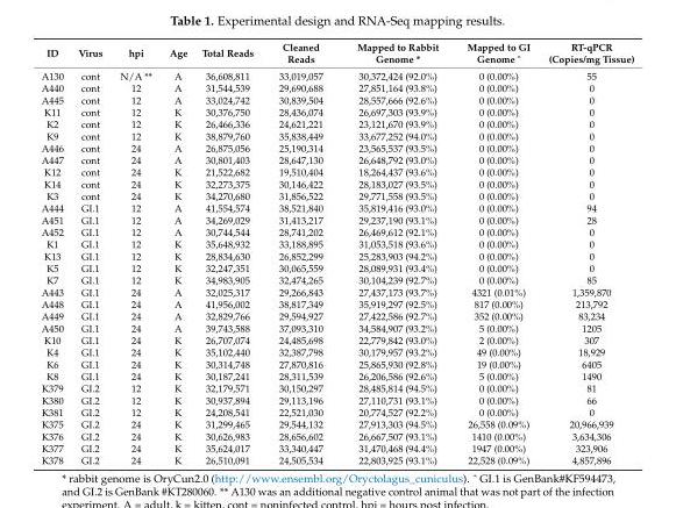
<table><thead><tr><td>ID</td><td>Virus</td><td>hpi</td><td>Age</td><td>Total Reads</td><td>Cleaned Reads</td><td>Mapped to Rabbit Genome *</td><td>Mapped to GI Genome ˆ</td><td>RT-qPCR (Copies/mg Tissue)</td></tr></thead><tbody><tr><td>A130</td><td>cont</td><td>N/A **</td><td>A</td><td>36,608,811</td><td>33,019,057</td><td>30,372,424 (92.0%)</td><td>0 (0.00%)</td><td>55</td></tr><tr><td>A440</td><td>cont</td><td>12</td><td>A</td><td>31,544,539</td><td>29,690,688</td><td>27,851,164 (93.8%)</td><td>0 (0.00%)</td><td>0</td></tr><tr><td>A445</td><td>cont</td><td>12</td><td>A</td><td>33,024,742</td><td>30,839,504</td><td>28,557,666 (92.6%)</td><td>0 (0.00%)</td><td>0</td></tr><tr><td>K11</td><td>cont</td><td>12</td><td>K</td><td>30,376,750</td><td>28,436,074</td><td>26,697,303 (93.9%)</td><td>0 (0.00%)</td><td>0</td></tr><tr><td>K2</td><td>cont</td><td>12</td><td>K</td><td>26,466,336</td><td>24,621,221</td><td>23,121,670 (93.9%)</td><td>0 (0.00%)</td><td>0</td></tr><tr><td>K9</td><td>cont</td><td>12</td><td>K</td><td>38,879,760</td><td>35,838,449</td><td>33,677,252 (94.0%)</td><td>0 (0.00%)</td><td>0</td></tr><tr><td>A446</td><td>cont</td><td>24</td><td>A</td><td>26,875,056</td><td>25,190,314</td><td>23,565,537 (93.5%)</td><td>0 (0.00%)</td><td>0</td></tr><tr><td>A447</td><td>cont</td><td>24</td><td>A</td><td>30,801,403</td><td>28,647,130</td><td>26,648,792 (93.0%)</td><td>0 (0.00%)</td><td>0</td></tr><tr><td>K12</td><td>cont</td><td>24</td><td>K</td><td>21,522,682</td><td>19,510,404</td><td>18,264,437 (93.6%)</td><td>0 (0.00%)</td><td>0</td></tr><tr><td>K14</td><td>cont</td><td>24</td><td>K</td><td>32,273,375</td><td>30,146,422</td><td>28,183,027 (93.5%)</td><td>0 (0.00%)</td><td>0</td></tr><tr><td>K3</td><td>cont</td><td>24</td><td>K</td><td>34,270,680</td><td>31,856,522</td><td>29,771,558 (93.5%)</td><td>0 (0.00%)</td><td>0</td></tr><tr><td>A444</td><td>GI.1</td><td>12</td><td>A</td><td>41,554,574</td><td>38,521,840</td><td>35,819,416 (93.0%)</td><td>0 (0.00%)</td><td>94</td></tr><tr><td>A451</td><td>GI.1</td><td>12</td><td>A</td><td>34,269,029</td><td>31,413,217</td><td>29,237,190 (93.1%)</td><td>0 (0.00%)</td><td>28</td></tr><tr><td>A452</td><td>GI.1</td><td>12</td><td>A</td><td>30,744,544</td><td>28,741,202</td><td>26,469,612 (92.1%)</td><td>0 (0.00%)</td><td>0</td></tr><tr><td>K1</td><td>GI.1</td><td>12</td><td>K</td><td>35,648,932</td><td>33,188,895</td><td>31,053,518 (93.6%)</td><td>0 (0.00%)</td><td>0</td></tr><tr><td>K13</td><td>GI.1</td><td>12</td><td>K</td><td>28,834,630</td><td>26,852,299</td><td>25,283,903 (94.2%)</td><td>0 (0.00%)</td><td>0</td></tr><tr><td>K5</td><td>GI.1</td><td>12</td><td>K</td><td>32,247,351</td><td>30,065,559</td><td>28,089,931 (93.4%)</td><td>0 (0.00%)</td><td>0</td></tr><tr><td>K7</td><td>GI.1</td><td>12</td><td>K</td><td>34,983,905</td><td>32,474,265</td><td>30,104,239 (92.7%)</td><td>0 (0.00%)</td><td>85</td></tr><tr><td>A443</td><td>GI.1</td><td>24</td><td>A</td><td>32,025,317</td><td>29,266,843</td><td>27,437,173 (93.7%)</td><td>4321 (0.01%)</td><td>1,359,870</td></tr><tr><td>A448</td><td>GI.1</td><td>24</td><td>A</td><td>41,956,002</td><td>38,817,349</td><td>35,919,297 (92.5%)</td><td>817 (0.00%)</td><td>213,792</td></tr><tr><td>A449</td><td>GI.1</td><td>24</td><td>A</td><td>32,829,766</td><td>29,594,927</td><td>27,422,586 (92.7%)</td><td>352 (0.00%)</td><td>83,234</td></tr><tr><td>A450</td><td>GI.1</td><td>24</td><td>A</td><td>39,743,588</td><td>37,093,310</td><td>34,584,907 (93.2%)</td><td>5 (0.00%)</td><td>1205</td></tr><tr><td>K10</td><td>GI.1</td><td>24</td><td>K</td><td>26,707,074</td><td>24,485,698</td><td>22,779,842 (93.0%)</td><td>2 (0.00%)</td><td>307</td></tr><tr><td>K4</td><td>GI.1</td><td>24</td><td>K</td><td>35,102,440</td><td>32,387,798</td><td>30,179,957 (93.2%)</td><td>49 (0.00%)</td><td>18,929</td></tr><tr><td>K6</td><td>GI.1</td><td>24</td><td>K</td><td>30,314,748</td><td>27,870,816</td><td>25,865,930 (92.8%)</td><td>19 (0.00%)</td><td>6405</td></tr><tr><td>K8</td><td>GI.1</td><td>24</td><td>K</td><td>30,187,241</td><td>28,311,539</td><td>26,206,586 (92.6%)</td><td>5 (0.00%)</td><td>1490</td></tr><tr><td>K379</td><td>GI.2</td><td>12</td><td>K</td><td>32,179,571</td><td>30,150,297</td><td>28,485,814 (94.5%)</td><td>0 (0.00%)</td><td>81</td></tr><tr><td>K380</td><td>GI.2</td><td>12</td><td>K</td><td>30,937,894</td><td>29,113,196</td><td>27,110,731 (93.1%)</td><td>0 (0.00%)</td><td>66</td></tr><tr><td>K381</td><td>GI.2</td><td>12</td><td>K</td><td>24,208,541</td><td>22,521,030</td><td>20,774,527 (92.2%)</td><td>0 (0.00%)</td><td>0</td></tr><tr><td>K375</td><td>GI.2</td><td>24</td><td>K</td><td>31,299,465</td><td>29,544,132</td><td>27,913,303 (94.5%)</td><td>26,558 (0.09%)</td><td>20,966,939</td></tr><tr><td>K376</td><td>GI.2</td><td>24</td><td>K</td><td>30,626,983</td><td>28,656,602</td><td>26,667,507 (93.1%)</td><td>1410 (0.00%)</td><td>3,634,306</td></tr><tr><td>K377</td><td>GI.2</td><td>24</td><td>K</td><td>35,624,017</td><td>33,340,447</td><td>31,470,468 (94.4%)</td><td>1947 (0.00%)</td><td>323,906</td></tr><tr><td>K378</td><td>GI.2</td><td>24</td><td>K</td><td>26,510,091</td><td>24,505,534</td><td>22,803,925 (93.1%)</td><td>22,528 (0.09%)</td><td>4,857,896</td></tr></tbody></table>